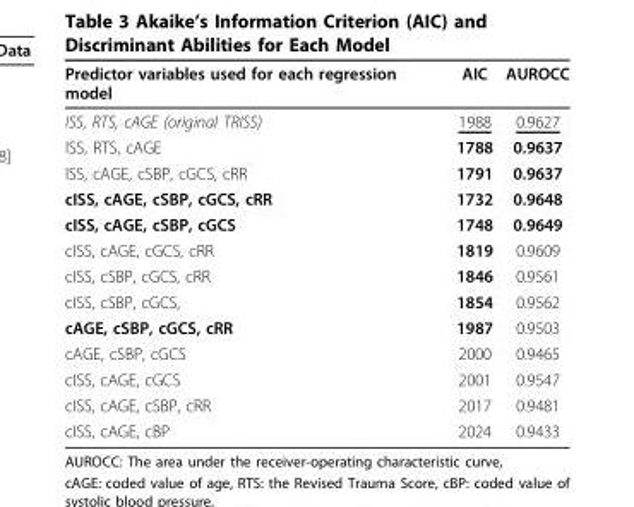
<table><thead><tr><td>Predictor variables used for each regression model</td><td>AIC</td><td>AUROCC</td></tr></thead><tbody><tr><td>ISS, RTS, cAGE (original TRISS)</td><td>1988</td><td>0.9627</td></tr><tr><td>ISS, RTS, cAGE</td><td>1788</td><td>0.9637</td></tr><tr><td>ISS, cAGE, cSBP, cGCS, cRR</td><td>1791</td><td>0.9637</td></tr><tr><td>cISS, cAGE, cSBP, cGCS, cRR</td><td>1732</td><td>0.9648</td></tr><tr><td>cISS, cAGE, cSBP, cGCS</td><td>1748</td><td>0.9649</td></tr><tr><td>cISS, cAGE, cGCS, cRR</td><td>1819</td><td>0.9609</td></tr><tr><td>cISS, cSBP, cGCS, cRR</td><td>1846</td><td>0.9561</td></tr><tr><td>cISS, cSBP, cGCS,</td><td>1854</td><td>0.9562</td></tr><tr><td>cAGE, cSBP, cGCS, cRR</td><td>1987</td><td>0.9503</td></tr><tr><td>cAGE, cSBP, cGCS</td><td>2000</td><td>0.9465</td></tr><tr><td>cISS, cAGE, cGCS</td><td>2001</td><td>0.9547</td></tr><tr><td>cISS, cAGE, cSBP, cRR</td><td>2017</td><td>0.9481</td></tr><tr><td>cISS, cAGE, cBP</td><td>2024</td><td>0.9433</td></tr></tbody></table>